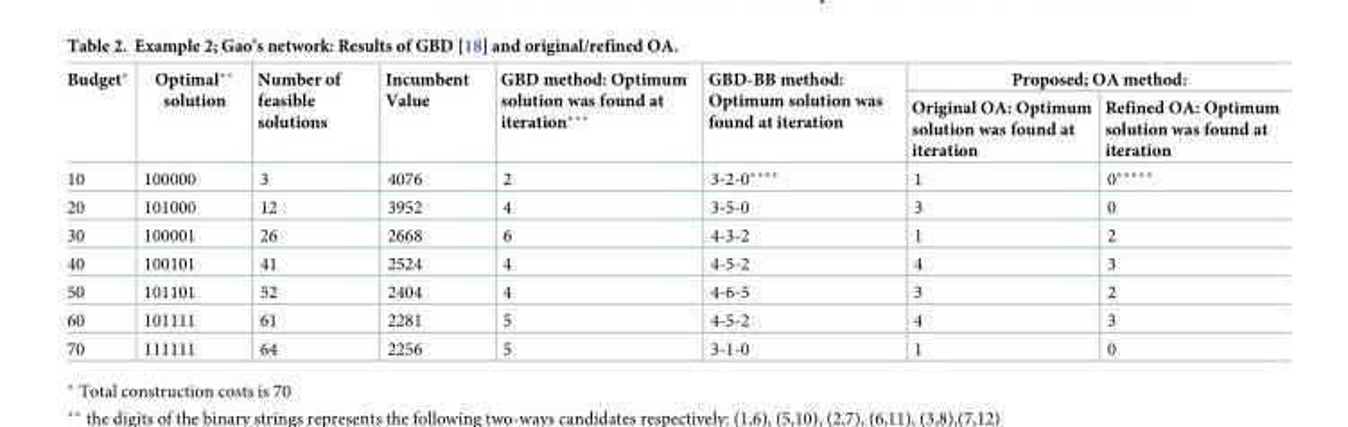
<table><thead><tr><td rowspan="2">Budget*</td><td rowspan="2">Optimal** solution</td><td rowspan="2">Number of feasible solutions</td><td rowspan="2">Incumbent Value</td><td rowspan="2">GBD method: Optimum solution was found at iteration***</td><td rowspan="2">GBD-BB method: Optimum solution was found at iteration</td><td colspan="2">Proposed; OA method:</td></tr><tr><td>Original OA: Optimum solution was found at iteration</td><td>Refined OA: Optimum solution was found at iteration</td></tr></thead><tbody><tr><td>10</td><td>100000</td><td>3</td><td>4076</td><td>2</td><td>3-2-0****</td><td>1</td><td>0*****</td></tr><tr><td>20</td><td>101000</td><td>12</td><td>3952</td><td>4</td><td>3-5-0</td><td>3</td><td>0</td></tr><tr><td>30</td><td>100001</td><td>26</td><td>2668</td><td>6</td><td>4-3-2</td><td>1</td><td>2</td></tr><tr><td>40</td><td>100101</td><td>41</td><td>2524</td><td>4</td><td>4-5-2</td><td>4</td><td>3</td></tr><tr><td>50</td><td>101101</td><td>52</td><td>2404</td><td>4</td><td>4-6-5</td><td>3</td><td>2</td></tr><tr><td>60</td><td>101111</td><td>61</td><td>2281</td><td>5</td><td>4-5-2</td><td>4</td><td>3</td></tr><tr><td>70</td><td>111111</td><td>64</td><td>2256</td><td>5</td><td>3-1-0</td><td>1</td><td>0</td></tr></tbody></table>